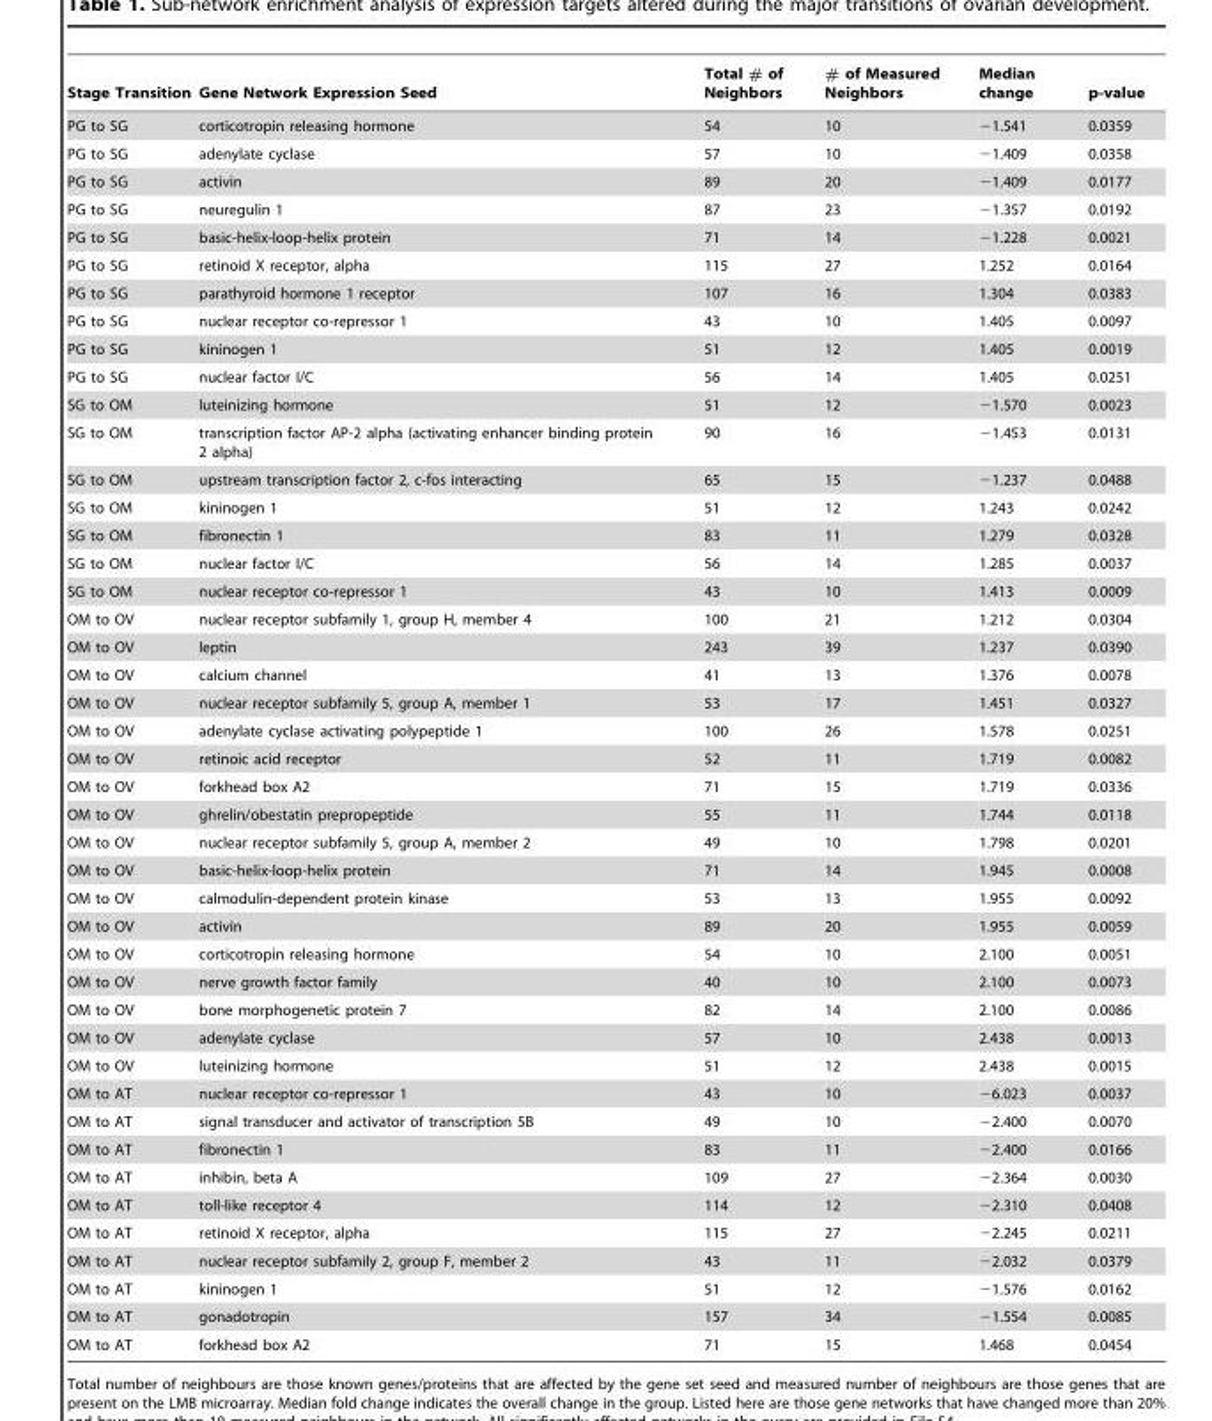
<table><thead><tr><td>Stage Transition</td><td>Gene Network Expression Seed</td><td>Total # of Neighbors</td><td># of Measured Neighbors</td><td>Median change</td><td>p-value</td></tr></thead><tbody><tr><td>PG to SG</td><td>corticotropin releasing hormone</td><td>54</td><td>10</td><td>−1.541</td><td>0.0359</td></tr><tr><td>PG to SG</td><td>adenylate cyclase</td><td>57</td><td>10</td><td>−1.409</td><td>0.0358</td></tr><tr><td>PG to SG</td><td>activin</td><td>89</td><td>20</td><td>−1.409</td><td>0.0177</td></tr><tr><td>PG to SG</td><td>neuregulin 1</td><td>87</td><td>23</td><td>−1.357</td><td>0.0192</td></tr><tr><td>PG to SG</td><td>basic-helix-loop-helix protein</td><td>71</td><td>14</td><td>−1.228</td><td>0.0021</td></tr><tr><td>PG to SG</td><td>retinoid X receptor, alpha</td><td>115</td><td>27</td><td>1.252</td><td>0.0164</td></tr><tr><td>PG to SG</td><td>parathyroid hormone 1 receptor</td><td>107</td><td>16</td><td>1.304</td><td>0.0383</td></tr><tr><td>PG to SG</td><td>nuclear receptor co-repressor 1</td><td>43</td><td>10</td><td>1.405</td><td>0.0097</td></tr><tr><td>PG to SG</td><td>kininogen 1</td><td>51</td><td>12</td><td>1.405</td><td>0.0019</td></tr><tr><td>PG to SG</td><td>nuclear factor I/C</td><td>56</td><td>14</td><td>1.405</td><td>0.0251</td></tr><tr><td>SG to OM</td><td>luteinizing hormone</td><td>51</td><td>12</td><td>−1.570</td><td>0.0023</td></tr><tr><td>SG to OM</td><td>transcription factor AP-2 alpha (activating enhancer binding protein 2 alpha)</td><td>90</td><td>16</td><td>−1.453</td><td>0.0131</td></tr><tr><td>SG to OM</td><td>upstream transcription factor 2, c-fos interacting</td><td>65</td><td>15</td><td>−1.237</td><td>0.0488</td></tr><tr><td>SG to OM</td><td>kininogen 1</td><td>51</td><td>12</td><td>1.243</td><td>0.0242</td></tr><tr><td>SG to OM</td><td>fibronectin 1</td><td>83</td><td>11</td><td>1.279</td><td>0.0328</td></tr><tr><td>SG to OM</td><td>nuclear factor I/C</td><td>56</td><td>14</td><td>1.285</td><td>0.0037</td></tr><tr><td>SG to OM</td><td>nuclear receptor co-repressor 1</td><td>43</td><td>10</td><td>1.413</td><td>0.0009</td></tr><tr><td>OM to OV</td><td>nuclear receptor subfamily 1, group H, member 4</td><td>100</td><td>21</td><td>1.212</td><td>0.0304</td></tr><tr><td>OM to OV</td><td>leptin</td><td>243</td><td>39</td><td>1.237</td><td>0.0390</td></tr><tr><td>OM to OV</td><td>calcium channel</td><td>41</td><td>13</td><td>1.376</td><td>0.0078</td></tr><tr><td>OM to OV</td><td>nuclear receptor subfamily 5, group A, member 1</td><td>53</td><td>17</td><td>1.451</td><td>0.0327</td></tr><tr><td>OM to OV</td><td>adenylate cyclase activating polypeptide 1</td><td>100</td><td>26</td><td>1.578</td><td>0.0251</td></tr><tr><td>OM to OV</td><td>retinoic acid receptor</td><td>52</td><td>11</td><td>1.719</td><td>0.0082</td></tr><tr><td>OM to OV</td><td>forkhead box A2</td><td>71</td><td>15</td><td>1.719</td><td>0.0336</td></tr><tr><td>OM to OV</td><td>ghrelin/obestatin prepropeptide</td><td>55</td><td>11</td><td>1.744</td><td>0.0118</td></tr><tr><td>OM to OV</td><td>nuclear receptor subfamily 5, group A, member 2</td><td>49</td><td>10</td><td>1.798</td><td>0.0201</td></tr><tr><td>OM to OV</td><td>basic-helix-loop-helix protein</td><td>71</td><td>14</td><td>1.945</td><td>0.0008</td></tr><tr><td>OM to OV</td><td>calmodulin-dependent protein kinase</td><td>53</td><td>13</td><td>1.955</td><td>0.0092</td></tr><tr><td>OM to OV</td><td>activin</td><td>89</td><td>20</td><td>1.955</td><td>0.0059</td></tr><tr><td>OM to OV</td><td>corticotropin releasing hormone</td><td>54</td><td>10</td><td>2.100</td><td>0.0051</td></tr><tr><td>OM to OV</td><td>nerve growth factor family</td><td>40</td><td>10</td><td>2.100</td><td>0.0073</td></tr><tr><td>OM to OV</td><td>bone morphogenetic protein 7</td><td>82</td><td>14</td><td>2.100</td><td>0.0086</td></tr><tr><td>OM to OV</td><td>adenylate cyclase</td><td>57</td><td>10</td><td>2.438</td><td>0.0013</td></tr><tr><td>OM to OV</td><td>luteinizing hormone</td><td>51</td><td>12</td><td>2.438</td><td>0.0015</td></tr><tr><td>OM to AT</td><td>nuclear receptor co-repressor 1</td><td>43</td><td>10</td><td>−6.023</td><td>0.0037</td></tr><tr><td>OM to AT</td><td>signal transducer and activator of transcription 5B</td><td>49</td><td>10</td><td>−2.400</td><td>0.0070</td></tr><tr><td>OM to AT</td><td>fibronectin 1</td><td>83</td><td>11</td><td>−2.400</td><td>0.0166</td></tr><tr><td>OM to AT</td><td>inhibin, beta A</td><td>109</td><td>27</td><td>−2.364</td><td>0.0030</td></tr><tr><td>OM to AT</td><td>toll-like receptor 4</td><td>114</td><td>12</td><td>−2.310</td><td>0.0408</td></tr><tr><td>OM to AT</td><td>retinoid X receptor, alpha</td><td>115</td><td>27</td><td>−2.245</td><td>0.0211</td></tr><tr><td>OM to AT</td><td>nuclear receptor subfamily 2, group F, member 2</td><td>43</td><td>11</td><td>−2.032</td><td>0.0379</td></tr><tr><td>OM to AT</td><td>kininogen 1</td><td>51</td><td>12</td><td>−1.576</td><td>0.0162</td></tr><tr><td>OM to AT</td><td>gonadotropin</td><td>157</td><td>34</td><td>−1.554</td><td>0.0085</td></tr><tr><td>OM to AT</td><td>forkhead box A2</td><td>71</td><td>15</td><td>1.468</td><td>0.0454</td></tr></tbody></table>